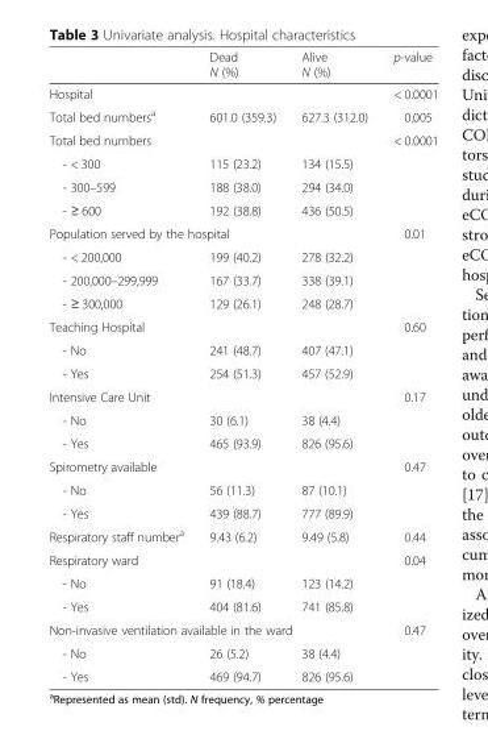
<table><thead><tr><td></td><td>Dead N (%)</td><td>Alive N (%)</td><td>p-value</td></tr></thead><tbody><tr><td colspan="3">Hospital</td><td>&lt; 0.0001</td></tr><tr><td>Total bed numbers<sup>a</sup></td><td>601.0 (359.3)</td><td>627.3 (312.0)</td><td>0.005</td></tr><tr><td colspan="3">Total bed numbers</td><td>&lt; 0.0001</td></tr><tr><td>- &lt; 300</td><td>115 (23.2)</td><td>134 (15.5)</td><td></td></tr><tr><td>- 300–599</td><td>188 (38.0)</td><td>294 (34.0)</td><td></td></tr><tr><td>- ≥ 600</td><td>192 (38.8)</td><td>436 (50.5)</td><td></td></tr><tr><td colspan="3">Population served by the hospital</td><td>0.01</td></tr><tr><td>- &lt; 200,000</td><td>199 (40.2)</td><td>278 (32.2)</td><td></td></tr><tr><td>- 200,000–299,999</td><td>167 (33.7)</td><td>338 (39.1)</td><td></td></tr><tr><td>- ≥ 300,000</td><td>129 (26.1)</td><td>248 (28.7)</td><td></td></tr><tr><td colspan="3">Teaching Hospital</td><td>0.60</td></tr><tr><td>- No</td><td>241 (48.7)</td><td>407 (47.1)</td><td></td></tr><tr><td>- Yes</td><td>254 (51.3)</td><td>457 (52.9)</td><td></td></tr><tr><td colspan="3">Intensive Care Unit</td><td>0.17</td></tr><tr><td>- No</td><td>30 (6.1)</td><td>38 (4.4)</td><td></td></tr><tr><td>- Yes</td><td>465 (93.9)</td><td>826 (95.6)</td><td></td></tr><tr><td colspan="3">Spirometry available</td><td>0.47</td></tr><tr><td>- No</td><td>56 (11.3)</td><td>87 (10.1)</td><td></td></tr><tr><td>- Yes</td><td>439 (88.7)</td><td>777 (89.9)</td><td></td></tr><tr><td>Respiratory staff number<sup>a</sup></td><td>9.43 (6.2)</td><td>9.49 (5.8)</td><td>0.44</td></tr><tr><td colspan="3">Respiratory ward</td><td>0.04</td></tr><tr><td>- No</td><td>91 (18.4)</td><td>123 (14.2)</td><td></td></tr><tr><td>- Yes</td><td>404 (81.6)</td><td>741 (85.8)</td><td></td></tr><tr><td colspan="3">Non-invasive ventilation available in the ward</td><td>0.47</td></tr><tr><td>- No</td><td>26 (5.2)</td><td>38 (4.4)</td><td></td></tr><tr><td>- Yes</td><td>469 (94.7)</td><td>826 (95.6)</td><td></td></tr></tbody></table>